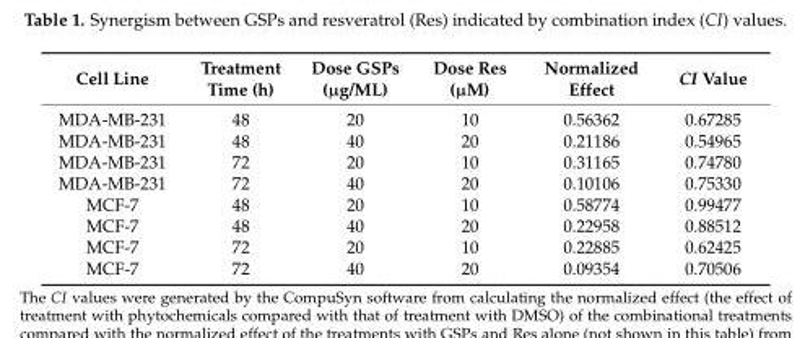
<table><thead><tr><td>Cell Line</td><td>Treatment Time (h)</td><td>Dose GSPs (µg/ML)</td><td>Dose Res (µM)</td><td>Normalized Effect</td><td>CI Value</td></tr></thead><tbody><tr><td>MDA-MB-231</td><td>48</td><td>20</td><td>10</td><td>0.56362</td><td>0.67285</td></tr><tr><td>MDA-MB-231</td><td>48</td><td>40</td><td>20</td><td>0.21186</td><td>0.54965</td></tr><tr><td>MDA-MB-231</td><td>72</td><td>20</td><td>10</td><td>0.31165</td><td>0.74780</td></tr><tr><td>MDA-MB-231</td><td>72</td><td>40</td><td>20</td><td>0.10106</td><td>0.75330</td></tr><tr><td>MCF-7</td><td>48</td><td>20</td><td>10</td><td>0.58774</td><td>0.99477</td></tr><tr><td>MCF-7</td><td>48</td><td>40</td><td>20</td><td>0.22958</td><td>0.88512</td></tr><tr><td>MCF-7</td><td>72</td><td>20</td><td>10</td><td>0.22885</td><td>0.62425</td></tr><tr><td>MCF-7</td><td>72</td><td>40</td><td>20</td><td>0.09354</td><td>0.70506</td></tr></tbody></table>